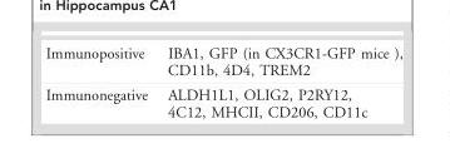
<table><tbody><tr><td>Immunopositive</td><td>IBA1, GFP (in CX3CR1-GFP mice ), CD11b, 4D4, TREM2</td></tr><tr><td>Immunonegative</td><td>ALDH1L1, OLIG2, P2RY12, 4C12, MHCII, CD206, CD11c</td></tr></tbody></table>